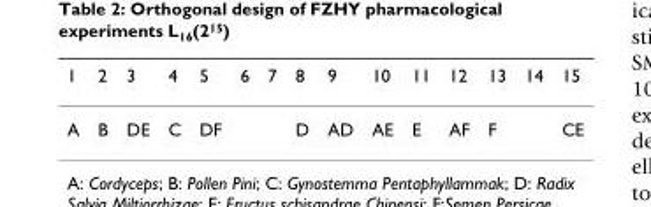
<table><thead><tr><td>1</td><td>2</td><td>3</td><td>4</td><td>5</td><td>6</td><td>7</td><td>8</td><td>9</td><td>10</td><td>11</td><td>12</td><td>13</td><td>14</td><td>15</td></tr></thead><tbody><tr><td>A</td><td>B</td><td>DE</td><td>C</td><td>DF</td><td></td><td></td><td>D</td><td>AD</td><td>AE</td><td>E</td><td>AF</td><td>F</td><td></td><td>CE</td></tr></tbody></table>